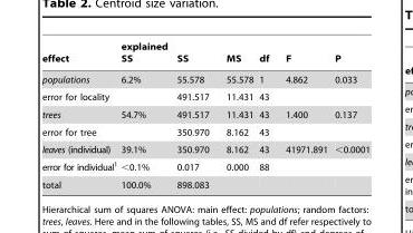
<table><thead><tr><td>effect</td><td>explained SS</td><td>SS</td><td>MS</td><td>df</td><td>F</td><td>P</td></tr></thead><tbody><tr><td>populations</td><td>6.2%</td><td>55.578</td><td>55.578</td><td>1</td><td>4.862</td><td>0.033</td></tr><tr><td>error for locality</td><td></td><td>491.517</td><td>11.431</td><td>43</td><td></td><td></td></tr><tr><td>trees</td><td>54.7%</td><td>491.517</td><td>11.431</td><td>43</td><td>1.400</td><td>0.137</td></tr><tr><td>error for tree</td><td></td><td>350.970</td><td>8.162</td><td>43</td><td></td><td></td></tr><tr><td>leaves (individual)</td><td>39.1%</td><td>350.970</td><td>8.162</td><td>43</td><td>41971.891</td><td>&lt;0.0001</td></tr><tr><td>error for individual<sup>1</sup></td><td>&lt;0.1%</td><td>0.017</td><td>0.000</td><td>88</td><td></td><td></td></tr><tr><td>total</td><td>100.0%</td><td>898.083</td><td></td><td></td><td></td><td></td></tr></tbody></table>